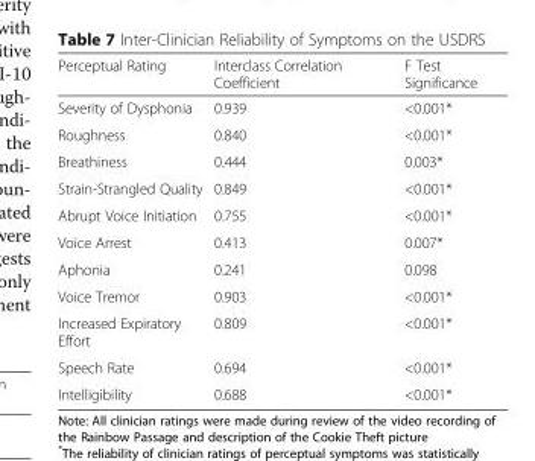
<table><thead><tr><td>Perceptual Rating</td><td>Interclass Correlation Coefficient</td><td>F Test Significance</td></tr></thead><tbody><tr><td>Severity of Dysphonia</td><td>0.939</td><td>&lt;0.001*</td></tr><tr><td>Roughness</td><td>0.840</td><td>&lt;0.001*</td></tr><tr><td>Breathiness</td><td>0.444</td><td>0.003*</td></tr><tr><td>Strain-Strangled Quality</td><td>0.849</td><td>&lt;0.001*</td></tr><tr><td>Abrupt Voice Initiation</td><td>0.755</td><td>&lt;0.001*</td></tr><tr><td>Voice Arrest</td><td>0.413</td><td>0.007*</td></tr><tr><td>Aphonia</td><td>0.241</td><td>0.098</td></tr><tr><td>Voice Tremor</td><td>0.903</td><td>&lt;0.001*</td></tr><tr><td>Increased Expiratory Effort</td><td>0.809</td><td>&lt;0.001*</td></tr><tr><td>Speech Rate</td><td>0.694</td><td>&lt;0.001*</td></tr><tr><td>Intelligibility</td><td>0.688</td><td>&lt;0.001*</td></tr></tbody></table>